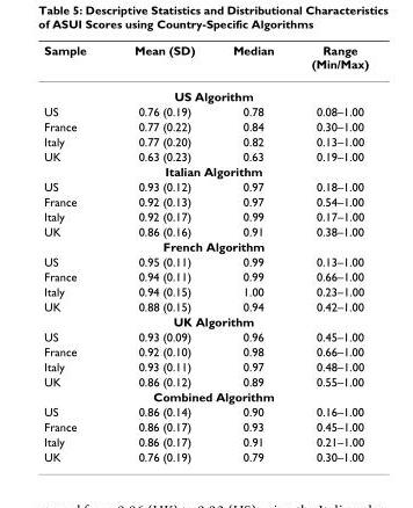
<table><thead><tr><td>Sample</td><td>Mean (SD)</td><td>Median</td><td>Range (Min/Max)</td></tr></thead><tbody><tr><td colspan="4">US Algorithm</td></tr><tr><td>US</td><td>0.76 (0.19)</td><td>0.78</td><td>0.08–1.00</td></tr><tr><td>France</td><td>0.77 (0.22)</td><td>0.84</td><td>0.30–1.00</td></tr><tr><td>Italy</td><td>0.77 (0.20)</td><td>0.82</td><td>0.13–1.00</td></tr><tr><td>UK</td><td>0.63 (0.23)</td><td>0.63</td><td>0.19–1.00</td></tr><tr><td colspan="4">Italian Algorithm</td></tr><tr><td>US</td><td>0.93 (0.12)</td><td>0.97</td><td>0.18–1.00</td></tr><tr><td>France</td><td>0.92 (0.13)</td><td>0.97</td><td>0.54–1.00</td></tr><tr><td>Italy</td><td>0.92 (0.17)</td><td>0.99</td><td>0.17–1.00</td></tr><tr><td>UK</td><td>0.86 (0.16)</td><td>0.91</td><td>0.38–1.00</td></tr><tr><td colspan="4">French Algorithm</td></tr><tr><td>US</td><td>0.95 (0.11)</td><td>0.99</td><td>0.13–1.00</td></tr><tr><td>France</td><td>0.94 (0.11)</td><td>0.99</td><td>0.66–1.00</td></tr><tr><td>Italy</td><td>0.94 (0.15)</td><td>1.00</td><td>0.23–1.00</td></tr><tr><td>UK</td><td>0.88 (0.15)</td><td>0.94</td><td>0.42–1.00</td></tr><tr><td colspan="4">UK Algorithm</td></tr><tr><td>US</td><td>0.93 (0.09)</td><td>0.96</td><td>0.45–1.00</td></tr><tr><td>France</td><td>0.92 (0.10)</td><td>0.98</td><td>0.66–1.00</td></tr><tr><td>Italy</td><td>0.93 (0.11)</td><td>0.97</td><td>0.48–1.00</td></tr><tr><td>UK</td><td>0.86 (0.12)</td><td>0.89</td><td>0.55–1.00</td></tr><tr><td colspan="4">Combined Algorithm</td></tr><tr><td>US</td><td>0.86 (0.14)</td><td>0.90</td><td>0.16–1.00</td></tr><tr><td>France</td><td>0.86 (0.17)</td><td>0.93</td><td>0.45–1.00</td></tr><tr><td>Italy</td><td>0.86 (0.17)</td><td>0.91</td><td>0.21–1.00</td></tr><tr><td>UK</td><td>0.76 (0.19)</td><td>0.79</td><td>0.30–1.00</td></tr></tbody></table>